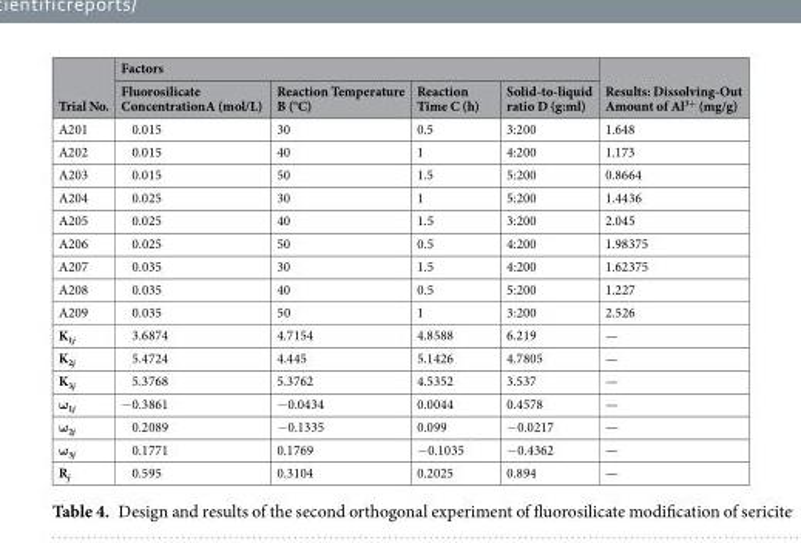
<table><thead><tr><td rowspan="2">Trial No.</td><td colspan="4">Factors</td><td rowspan="2">Results: Dissolving-Out Amount of Al<sup>3+</sup> (mg/g)</td></tr><tr><td>Fluorosilicate ConcentrationA (mol/L)</td><td>Reaction Temperature B (°C)</td><td>Reaction Time C (h)</td><td>Solid-to-liquid ratio D (g:ml)</td></tr></thead><tbody><tr><td>A201</td><td>0.015</td><td>30</td><td>0.5</td><td>3:200</td><td>1.648</td></tr><tr><td>A202</td><td>0.015</td><td>40</td><td>1</td><td>4:200</td><td>1.173</td></tr><tr><td>A203</td><td>0.015</td><td>50</td><td>1.5</td><td>5:200</td><td>0.8664</td></tr><tr><td>A204</td><td>0.025</td><td>30</td><td>1</td><td>5:200</td><td>1.4436</td></tr><tr><td>A205</td><td>0.025</td><td>40</td><td>1.5</td><td>3:200</td><td>2.045</td></tr><tr><td>A206</td><td>0.025</td><td>50</td><td>0.5</td><td>4:200</td><td>1.98375</td></tr><tr><td>A207</td><td>0.035</td><td>30</td><td>1.5</td><td>4:200</td><td>1.62375</td></tr><tr><td>A208</td><td>0.035</td><td>40</td><td>0.5</td><td>5:200</td><td>1.227</td></tr><tr><td>A209</td><td>0.035</td><td>50</td><td>1</td><td>3:200</td><td>2.526</td></tr><tr><td>K<sub>1j</sub></td><td>3.6874</td><td>4.7154</td><td>4.8588</td><td>6.219</td><td>—</td></tr><tr><td>K<sub>2j</sub></td><td>5.4724</td><td>4.445</td><td>5.1426</td><td>4.7805</td><td>—</td></tr><tr><td>K<sub>3j</sub></td><td>5.3768</td><td>5.3762</td><td>4.5352</td><td>3.537</td><td>—</td></tr><tr><td>ω<sub>1j</sub></td><td>−0.3861</td><td>−0.0434</td><td>0.0044</td><td>0.4578</td><td>—</td></tr><tr><td>ω<sub>2j</sub></td><td>0.2089</td><td>−0.1335</td><td>0.099</td><td>−0.0217</td><td>—</td></tr><tr><td>ω<sub>3j</sub></td><td>0.1771</td><td>0.1769</td><td>−0.1035</td><td>−0.4362</td><td>—</td></tr><tr><td>R<sub>j</sub></td><td>0.595</td><td>0.3104</td><td>0.2025</td><td>0.894</td><td>—</td></tr></tbody></table>